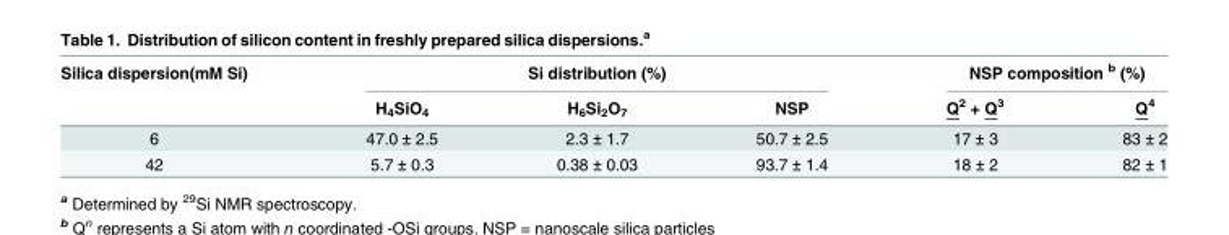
<table><thead><tr><td rowspan="2">Silica dispersion(mM Si)</td><td colspan="3">Si distribution (%)</td><td colspan="2">NSP composition <sup>b</sup> (%)</td></tr><tr><td>H<sub>4</sub>SiO<sub>4</sub></td><td>H<sub>6</sub>Si<sub>2</sub>O<sub>7</sub></td><td>NSP</td><td>Q<sup>2</sup> + Q<sup>3</sup></td><td>Q<sup>4</sup></td></tr></thead><tbody><tr><td>6</td><td>47.0 ± 2.5</td><td>2.3 ± 1.7</td><td>50.7 ± 2.5</td><td>17 ± 3</td><td>83 ± 2</td></tr><tr><td>42</td><td>5.7 ± 0.3</td><td>0.38 ± 0.03</td><td>93.7 ± 1.4</td><td>18 ± 2</td><td>82 ± 1</td></tr></tbody></table>